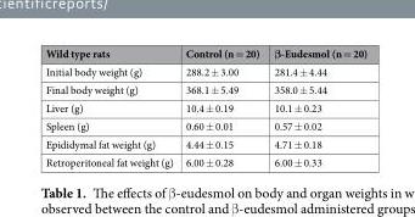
<table><thead><tr><td>Wild type rats</td><td>Control (n = 20)</td><td>β-Eudesmol (n = 20)</td></tr></thead><tbody><tr><td>Initial body weight (g)</td><td>288.2 ± 3.00</td><td>281.4 ± 4.44</td></tr><tr><td>Final body weight (g)</td><td>368.1 ± 5.49</td><td>358.0 ± 5.44</td></tr><tr><td>Liver (g)</td><td>10.4 ± 0.19</td><td>10.1 ± 0.23</td></tr><tr><td>Spleen (g)</td><td>0.60 ± 0.01</td><td>0.57 ± 0.02</td></tr><tr><td>Epididymal fat weight (g)</td><td>4.44 ± 0.15</td><td>4.71 ± 0.18</td></tr><tr><td>Retroperitoneal fat weight (g)</td><td>6.00 ± 0.28</td><td>6.00 ± 0.33</td></tr></tbody></table>